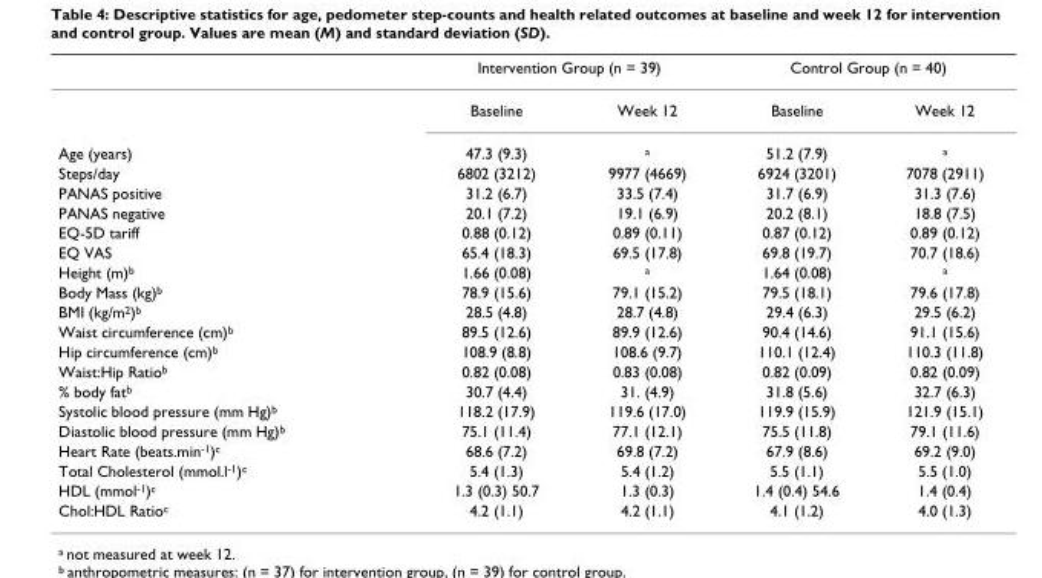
<table><thead><tr><td rowspan="2"></td><td colspan="2">Intervention Group (n = 39)</td><td colspan="2">Control Group (n = 40)</td></tr><tr><td>Baseline</td><td>Week 12</td><td>Baseline</td><td>Week 12</td></tr></thead><tbody><tr><td>Age (years)</td><td>47.3 (9.3)</td><td><sup>a</sup></td><td>51.2 (7.9)</td><td><sup>a</sup></td></tr><tr><td>Steps/day</td><td>6802 (3212)</td><td>9977 (4669)</td><td>6924 (3201)</td><td>7078 (2911)</td></tr><tr><td>PANAS positive</td><td>31.2 (6.7)</td><td>33.5 (7.4)</td><td>31.7 (6.9)</td><td>31.3 (7.6)</td></tr><tr><td>PANAS negative</td><td>20.1 (7.2)</td><td>19.1 (6.9)</td><td>20.2 (8.1)</td><td>18.8 (7.5)</td></tr><tr><td>EQ-5D tariff</td><td>0.88 (0.12)</td><td>0.89 (0.11)</td><td>0.87 (0.12)</td><td>0.89 (0.12)</td></tr><tr><td>EQ VAS</td><td>65.4 (18.3)</td><td>69.5 (17.8)</td><td>69.8 (19.7)</td><td>70.7 (18.6)</td></tr><tr><td>Height (m)<sup>b</sup></td><td>1.66 (0.08)</td><td><sup>a</sup></td><td>1.64 (0.08)</td><td><sup>a</sup></td></tr><tr><td>Body Mass (kg)<sup>b</sup></td><td>78.9 (15.6)</td><td>79.1 (15.2)</td><td>79.5 (18.1)</td><td>79.6 (17.8)</td></tr><tr><td>BMI (kg/m<sup>2</sup>)<sup>b</sup></td><td>28.5 (4.8)</td><td>28.7 (4.8)</td><td>29.4 (6.3)</td><td>29.5 (6.2)</td></tr><tr><td>Waist circumference (cm)<sup>b</sup></td><td>89.5 (12.6)</td><td>89.9 (12.6)</td><td>90.4 (14.6)</td><td>91.1 (15.6)</td></tr><tr><td>Hip circumference (cm)<sup>b</sup></td><td>108.9 (8.8)</td><td>108.6 (9.7)</td><td>110.1 (12.4)</td><td>110.3 (11.8)</td></tr><tr><td>Waist:Hip Ratio<sup>b</sup></td><td>0.82 (0.08)</td><td>0.83 (0.08)</td><td>0.82 (0.09)</td><td>0.82 (0.09)</td></tr><tr><td>% body fat<sup>b</sup></td><td>30.7 (4.4)</td><td>31. (4.9)</td><td>31.8 (5.6)</td><td>32.7 (6.3)</td></tr><tr><td>Systolic blood pressure (mm Hg)<sup>b</sup></td><td>118.2 (17.9)</td><td>119.6 (17.0)</td><td>119.9 (15.9)</td><td>121.9 (15.1)</td></tr><tr><td>Diastolic blood pressure (mm Hg)<sup>b</sup></td><td>75.1 (11.4)</td><td>77.1 (12.1)</td><td>75.5 (11.8)</td><td>79.1 (11.6)</td></tr><tr><td>Heart Rate (beats.min<sup>-1</sup>)<sup>c</sup></td><td>68.6 (7.2)</td><td>69.8 (7.2)</td><td>67.9 (8.6)</td><td>69.2 (9.0)</td></tr><tr><td>Total Cholesterol (mmol.l<sup>-1</sup>)<sup>c</sup></td><td>5.4 (1.3)</td><td>5.4 (1.2)</td><td>5.5 (1.1)</td><td>5.5 (1.0)</td></tr><tr><td>HDL (mmol<sup>-1</sup>)<sup>c</sup></td><td>1.3 (0.3) 50.7</td><td>1.3 (0.3)</td><td>1.4 (0.4) 54.6</td><td>1.4 (0.4)</td></tr><tr><td>Chol:HDL Ratio<sup>c</sup></td><td>4.2 (1.1)</td><td>4.2 (1.1)</td><td>4.1 (1.2)</td><td>4.0 (1.3)</td></tr></tbody></table>